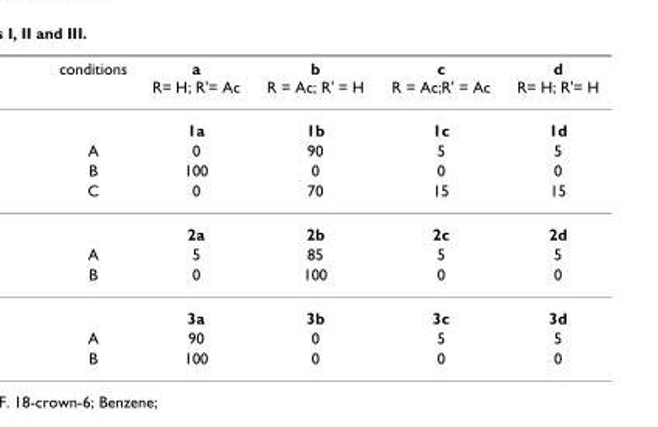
<table><thead><tr><td>conditions</td><td>a R= H; R&#x27;= Ac</td><td>b R = Ac; R&#x27; = H</td><td>c R = Ac;R&#x27; = Ac</td><td>d R= H; R&#x27;= H</td></tr></thead><tbody><tr><td></td><td>1a</td><td>1b</td><td>1c</td><td>1d</td></tr><tr><td>A</td><td>0</td><td>90</td><td>5</td><td>5</td></tr><tr><td>B</td><td>100</td><td>0</td><td>0</td><td>0</td></tr><tr><td rowspan="2">C</td><td>0</td><td>70</td><td>15</td><td>15</td></tr><tr><td>2a</td><td>2b</td><td>2c</td><td>2d</td></tr><tr><td>A</td><td>5</td><td>85</td><td>5</td><td>5</td></tr><tr><td rowspan="2">B</td><td>0</td><td>100</td><td>0</td><td>0</td></tr><tr><td>3a</td><td>3b</td><td>3c</td><td>3d</td></tr><tr><td>A</td><td>90</td><td>0</td><td>5</td><td>5</td></tr><tr><td>B</td><td>100</td><td>0</td><td>0</td><td>0</td></tr></tbody></table>